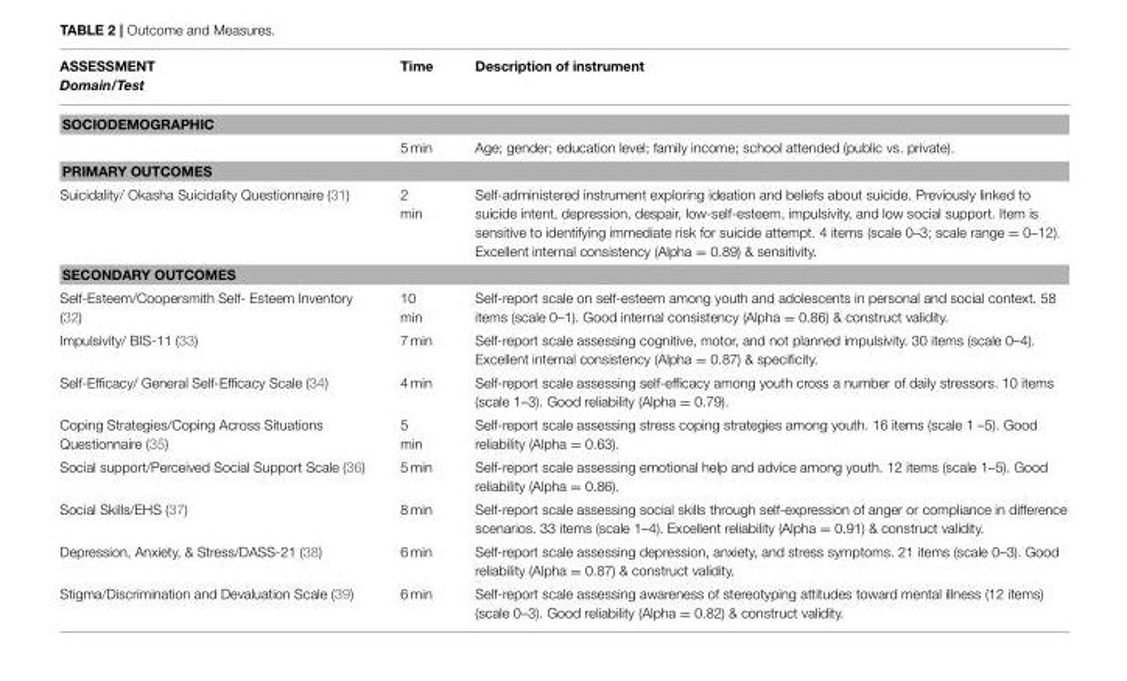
<table><thead><tr><td>ASSESSMENT Domain/Test</td><td>Time</td><td>Description of instrument</td></tr></thead><tbody><tr><td colspan="3">SOCIODEMOGRAPHIC</td></tr><tr><td></td><td>5 min</td><td>Age; gender; education level; family income; school attended (public vs. private).</td></tr><tr><td colspan="3">PRIMARY OUTCOMES</td></tr><tr><td>Suicidality/ Okasha Suicidality Questionnaire (31)</td><td>2 min</td><td>Self-administered instrument exploring ideation and beliefs about suicide. Previously linked to suicide intent, depression, despair, low-self-esteem, impulsivity, and low social support. Item is sensitive to identifying immediate risk for suicide attempt. 4 items (scale 0–3; scale range = 0–12). Excellent internal consistency (Alpha = 0.89) &amp; sensitivity.</td></tr><tr><td colspan="3">SECONDARY OUTCOMES</td></tr><tr><td>Self-Esteem/Coopersmith Self- Esteem Inventory (32)</td><td>10 min</td><td>Self-report scale on self-esteem among youth and adolescents in personal and social context. 58 items (scale 0–1). Good internal consistency (Alpha = 0.86) &amp; construct validity.</td></tr><tr><td>Impulsivity/ BIS-11 (33)</td><td>7 min</td><td>Self-report scale assessing cognitive, motor, and not planned impulsivity. 30 items (scale 0–4). Excellent internal consistency (Alpha = 0.87) &amp; specificity.</td></tr><tr><td>Self-Efficacy/ General Self-Efficacy Scale (34)</td><td>4 min</td><td>Self-report scale assessing self-efficacy among youth cross a number of daily stressors. 10 items (scale 1–3). Good reliability (Alpha = 0.79).</td></tr><tr><td>Coping Strategies/Coping Across Situations Questionnaire (35)</td><td>5 min</td><td>Self-report scale assessing stress coping strategies among youth. 16 items (scale 1 –5). Good reliability (Alpha = 0.63).</td></tr><tr><td>Social support/Perceived Social Support Scale (36)</td><td>5 min</td><td>Self-report scale assessing emotional help and advice among youth. 12 items (scale 1–5). Good reliability (Alpha = 0.86).</td></tr><tr><td>Social Skills/EHS (37)</td><td>8 min</td><td>Self-report scale assessing social skills through self-expression of anger or compliance in difference scenarios. 33 items (scale 1–4). Excellent reliability (Alpha = 0.91) &amp; construct validity.</td></tr><tr><td>Depression, Anxiety, &amp; Stress/DASS-21 (38)</td><td>6 min</td><td>Self-report scale assessing depression, anxiety, and stress symptoms. 21 items (scale 0–3). Good reliability (Alpha = 0.87) &amp; construct validity.</td></tr><tr><td>Stigma/Discrimination and Devaluation Scale (39)</td><td>6 min</td><td>Self-report scale assessing awareness of stereotyping attitudes toward mental illness (12 items) (scale 0–3). Good reliability (Alpha = 0.82) &amp; construct validity.</td></tr></tbody></table>